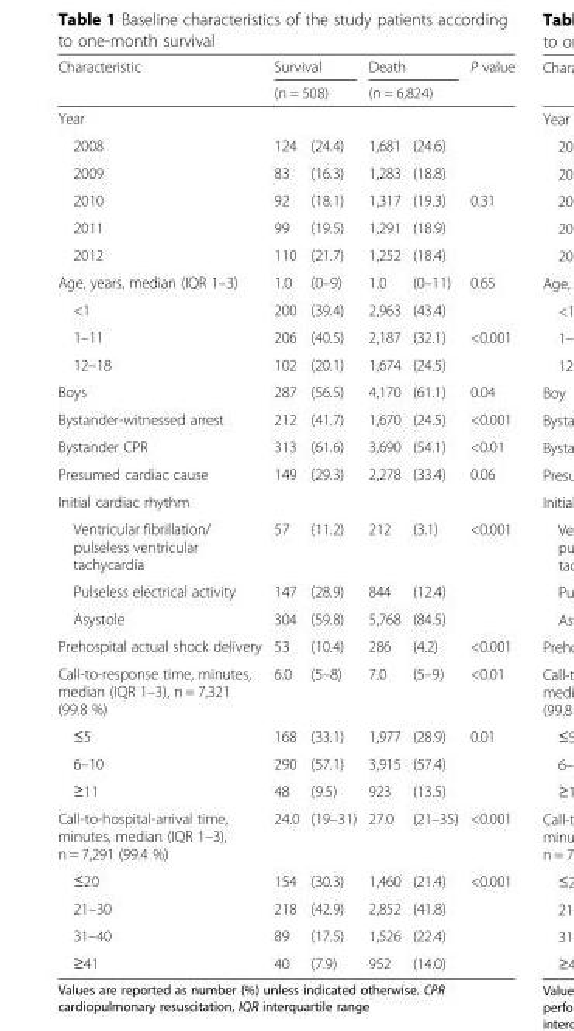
<table><thead><tr><td rowspan="3">Characteristic Year</td><td rowspan="2" colspan="2">Survival (n = 508)</td><td rowspan="2" colspan="2">Death (n = 6,824)</td><td rowspan="3">P value</td></tr><tr></tr><tr><td></td><td></td><td></td><td></td></tr></thead><tbody><tr><td>2008</td><td>124</td><td>(24.4)</td><td>1,681</td><td>(24.6)</td><td></td></tr><tr><td>2009</td><td>83</td><td>(16.3)</td><td>1,283</td><td>(18.8)</td><td></td></tr><tr><td>2010</td><td>92</td><td>(18.1)</td><td>1,317</td><td>(19.3)</td><td>0.31</td></tr><tr><td>2011</td><td>99</td><td>(19.5)</td><td>1,291</td><td>(18.9)</td><td></td></tr><tr><td>2012</td><td>110</td><td>(21.7)</td><td>1,252</td><td>(18.4)</td><td></td></tr><tr><td>Age, years, median (IQR 1–3)</td><td>1.0</td><td>(0–9)</td><td>1.0</td><td>(0–11)</td><td>0.65</td></tr><tr><td>&lt;1</td><td>200</td><td>(39.4)</td><td>2,963</td><td>(43.4)</td><td></td></tr><tr><td>1–11</td><td>206</td><td>(40.5)</td><td>2,187</td><td>(32.1)</td><td>&lt;0.001</td></tr><tr><td>12–18</td><td>102</td><td>(20.1)</td><td>1,674</td><td>(24.5)</td><td></td></tr><tr><td>Boys</td><td>287</td><td>(56.5)</td><td>4,170</td><td>(61.1)</td><td>0.04</td></tr><tr><td>Bystander-witnessed arrest</td><td>212</td><td>(41.7)</td><td>1,670</td><td>(24.5)</td><td>&lt;0.001</td></tr><tr><td>Bystander CPR</td><td>313</td><td>(61.6)</td><td>3,690</td><td>(54.1)</td><td>&lt;0.01</td></tr><tr><td>Presumed cardiac cause</td><td>149</td><td>(29.3)</td><td>2,278</td><td>(33.4)</td><td>0.06</td></tr><tr><td colspan="6">Initial cardiac rhythm</td></tr><tr><td>Ventricular fibrillation/ pulseless ventricular tachycardia</td><td>57</td><td>(11.2)</td><td>212</td><td>(3.1)</td><td rowspan="3">&lt;0.001</td></tr><tr><td>Pulseless electrical activity</td><td>147</td><td>(28.9)</td><td>844</td><td>(12.4)</td></tr><tr><td>Asystole</td><td>304</td><td>(59.8)</td><td>5,768</td><td>(84.5)</td></tr><tr><td>Prehospital actual shock delivery</td><td>53</td><td>(10.4)</td><td>286</td><td>(4.2)</td><td>&lt;0.001</td></tr><tr><td>Call-to-response time, minutes, median (IQR 1–3), n = 7,321 (99.8 %)</td><td>6.0</td><td>(5–8)</td><td>7.0</td><td>(5–9)</td><td>&lt;0.01</td></tr><tr><td>≤5</td><td>168</td><td>(33.1)</td><td>1,977</td><td>(28.9)</td><td rowspan="3">0.01</td></tr><tr><td>6–10</td><td>290</td><td>(57.1)</td><td>3,915</td><td>(57.4)</td></tr><tr><td>≥11</td><td>48</td><td>(9.5)</td><td>923</td><td>(13.5)</td></tr><tr><td>Call-to-hospital-arrival time, minutes, median (IQR 1–3), n = 7,291 (99.4 %)</td><td>24.0</td><td>(19–31)</td><td>27.0</td><td>(21–35)</td><td>&lt;0.001</td></tr><tr><td>≤20</td><td>154</td><td>(30.3)</td><td>1,460</td><td>(21.4)</td><td rowspan="4">&lt;0.001</td></tr><tr><td>21–30</td><td>218</td><td>(42.9)</td><td>2,852</td><td>(41.8)</td></tr><tr><td>31–40</td><td>89</td><td>(17.5)</td><td>1,526</td><td>(22.4)</td></tr><tr><td>≥41</td><td>40</td><td>(7.9)</td><td>952</td><td>(14.0)</td></tr></tbody></table>